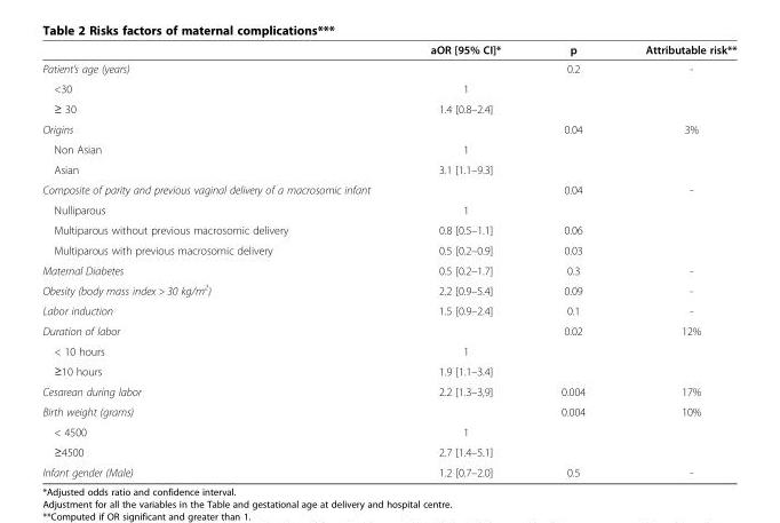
<table><thead><tr><td></td><td>aOR [95% CI]*</td><td>p</td><td>Attributable risk**</td></tr></thead><tbody><tr><td>Patient’s age (years)</td><td></td><td>0.2</td><td>-</td></tr><tr><td>&lt;30</td><td>1</td><td></td><td></td></tr><tr><td>≥ 30</td><td>1.4 [0.8–2.4]</td><td></td><td></td></tr><tr><td>Origins</td><td></td><td>0.04</td><td>3%</td></tr><tr><td>Non Asian</td><td>1</td><td></td><td></td></tr><tr><td>Asian</td><td>3.1 [1.1–9.3]</td><td></td><td></td></tr><tr><td>Composite of parity and previous vaginal delivery of a macrosomic infant</td><td></td><td>0.04</td><td>-</td></tr><tr><td>Nulliparous</td><td>1</td><td></td><td></td></tr><tr><td>Multiparous without previous macrosomic delivery</td><td>0.8 [0.5–1.1]</td><td>0.06</td><td></td></tr><tr><td>Multiparous with previous macrosomic delivery</td><td>0.5 [0.2–0.9]</td><td>0.03</td><td></td></tr><tr><td>Maternal Diabetes</td><td>0.5 [0.2–1.7]</td><td>0.3</td><td>-</td></tr><tr><td>Obesity (body mass index &gt; 30 kg/m<sup>2</sup>)</td><td>2.2 [0.9–5.4]</td><td>0.09</td><td>-</td></tr><tr><td>Labor induction</td><td>1.5 [0.9–2.4]</td><td>0.1</td><td>-</td></tr><tr><td>Duration of labor</td><td></td><td>0.02</td><td>12%</td></tr><tr><td>&lt; 10 hours</td><td>1</td><td></td><td></td></tr><tr><td>≥10 hours</td><td>1.9 [1.1–3.4]</td><td></td><td></td></tr><tr><td>Cesarean during labor</td><td>2.2 [1.3–3,9]</td><td>0.004</td><td>17%</td></tr><tr><td>Birth weight (grams)</td><td></td><td>0.004</td><td>10%</td></tr><tr><td>&lt; 4500</td><td>1</td><td></td><td></td></tr><tr><td>≥4500</td><td>2.7 [1.4–5.1]</td><td></td><td></td></tr><tr><td>Infant gender (Male)</td><td>1.2 [0.7–2.0]</td><td>0.5</td><td>-</td></tr></tbody></table>